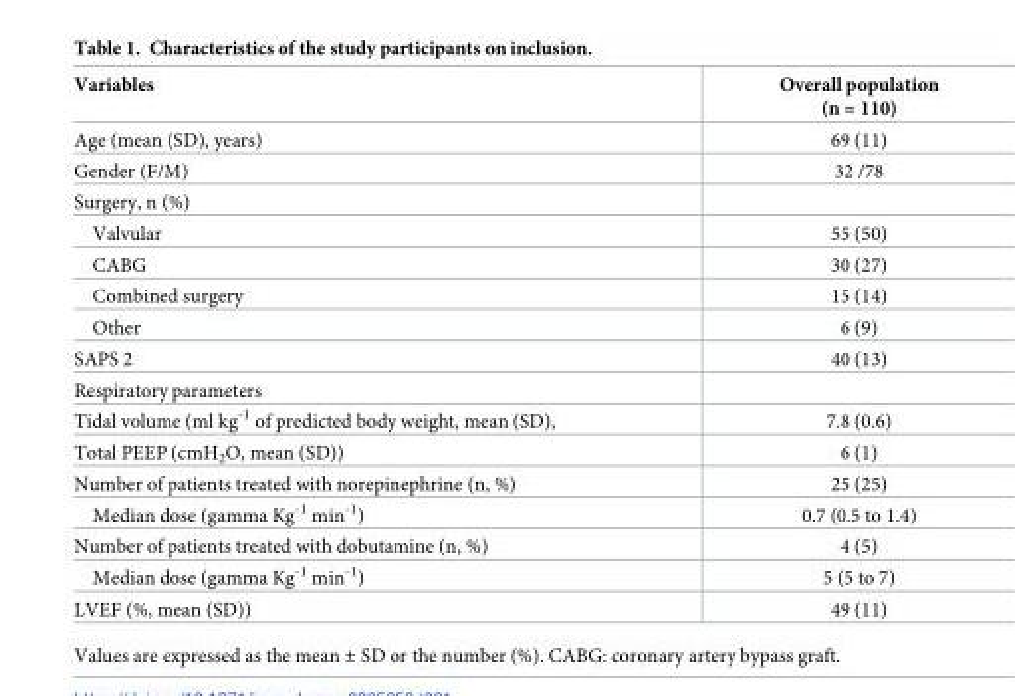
<table><thead><tr><td>Variables</td><td>Overall population (n = 110)</td></tr></thead><tbody><tr><td>Age (mean (SD), years)</td><td>69 (11)</td></tr><tr><td>Gender (F/M)</td><td>32 /78</td></tr><tr><td colspan="2">Surgery, n (%)</td></tr><tr><td>Valvular</td><td>55 (50)</td></tr><tr><td>CABG</td><td>30 (27)</td></tr><tr><td>Combined surgery</td><td>15 (14)</td></tr><tr><td>Other</td><td>6 (9)</td></tr><tr><td>SAPS 2</td><td>40 (13)</td></tr><tr><td colspan="2">Respiratory parameters</td></tr><tr><td>Tidal volume (ml kg<sup>-1</sup> of predicted body weight, mean (SD),</td><td>7.8 (0.6)</td></tr><tr><td>Total PEEP (cmH<sub>2</sub>O, mean (SD))</td><td>6 (1)</td></tr><tr><td>Number of patients treated with norepinephrine (n, %)</td><td>25 (25)</td></tr><tr><td>Median dose (gamma Kg<sup>-1</sup> min<sup>-1</sup>)</td><td>0.7 (0.5 to 1.4)</td></tr><tr><td>Number of patients treated with dobutamine (n, %)</td><td>4 (5)</td></tr><tr><td>Median dose (gamma Kg<sup>-1</sup> min<sup>-1</sup>)</td><td>5 (5 to 7)</td></tr><tr><td>LVEF (%, mean (SD))</td><td>49 (11)</td></tr></tbody></table>